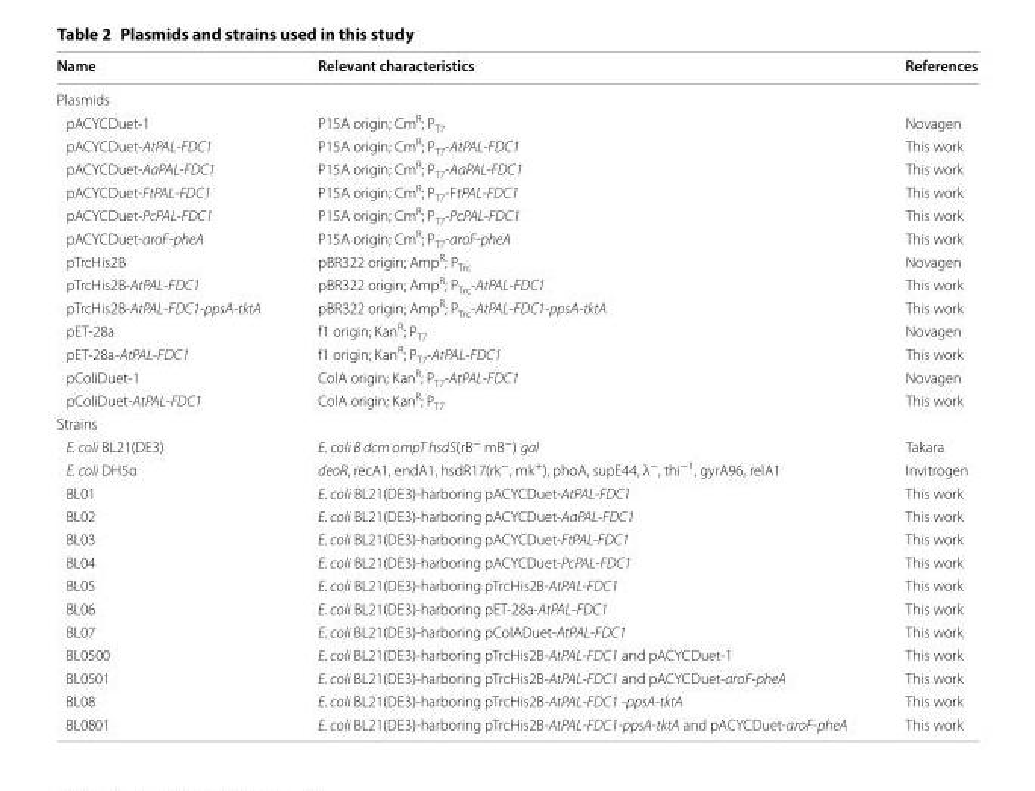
<table><thead><tr><td>Name</td><td>Relevant characteristics</td><td>References</td></tr></thead><tbody><tr><td colspan="3">Plasmids</td></tr><tr><td>pACYCDuet-1</td><td>P15A origin; Cm<sup>R</sup>; P<sub>T7</sub></td><td>Novagen</td></tr><tr><td>pACYCDuet-AtPAL-FDC1</td><td>P15A origin; Cm<sup>R</sup>; P<sub>T7</sub>-AtPAL-FDC1</td><td>This work</td></tr><tr><td>pACYCDuet-AaPAL-FDC1</td><td>P15A origin; Cm<sup>R</sup>; P<sub>T7</sub>-AaPAL-FDC1</td><td>This work</td></tr><tr><td>pACYCDuet-FtPAL-FDC1</td><td>P15A origin; Cm<sup>R</sup>; P<sub>T7</sub>-FtPAL-FDC1</td><td>This work</td></tr><tr><td>pACYCDuet-PcPAL-FDC1</td><td>P15A origin; Cm<sup>R</sup>; P<sub>T7</sub>-PcPAL-FDC1</td><td>This work</td></tr><tr><td>pACYCDuet-aroF-pheA</td><td>P15A origin; Cm<sup>R</sup>; P<sub>T7</sub>-aroF-pheA</td><td>This work</td></tr><tr><td>pTrcHis2B</td><td>pBR322 origin; Amp<sup>R</sup>; P<sub>Trc</sub></td><td>Novagen</td></tr><tr><td>pTrcHis2B-AtPAL-FDC1</td><td>pBR322 origin; Amp<sup>R</sup>; P<sub>Trc</sub>-AtPAL-FDC1</td><td>This work</td></tr><tr><td>pTrcHis2B-AtPAL-FDC1-ppsA-tktA</td><td>pBR322 origin; Amp<sup>R</sup>; P<sub>Trc</sub>-AtPAL-FDC1-ppsA-tktA</td><td>This work</td></tr><tr><td>pET-28a</td><td>f1 origin; Kan<sup>R</sup>; P<sub>T7</sub></td><td>Novagen</td></tr><tr><td>pET-28a-AtPAL-FDC1</td><td>f1 origin; Kan<sup>R</sup>; P<sub>T7</sub>-AtPAL-FDC1</td><td>This work</td></tr><tr><td>pColiDuet-1</td><td>ColA origin; Kan<sup>R</sup>; P<sub>T7</sub>-AtPAL-FDC1</td><td>Novagen</td></tr><tr><td>pColiDuet-AtPAL-FDC1</td><td>ColA origin; Kan<sup>R</sup>; P<sub>T7</sub></td><td>This work</td></tr><tr><td colspan="3">Strains</td></tr><tr><td>E. coli BL21(DE3)</td><td>E. coli B dcm ompT hsdS(rB<sup>−</sup> mB<sup>−</sup>) gal</td><td>Takara</td></tr><tr><td>E. coli DH5α</td><td>deoR, recA1, endA1, hsdR17(rk<sup>−</sup>, mk<sup>+</sup>), phoA, supE44, λ<sup>−</sup>, thi<sup>−1</sup>, gyrA96, relA1</td><td>Invitrogen</td></tr><tr><td>BL01</td><td>E. coli BL21(DE3)-harboring pACYCDuet-AtPAL-FDC1</td><td>This work</td></tr><tr><td>BL02</td><td>E. coli BL21(DE3)-harboring pACYCDuet-AaPAL-FDC1</td><td>This work</td></tr><tr><td>BL03</td><td>E. coli BL21(DE3)-harboring pACYCDuet-FtPAL-FDC1</td><td>This work</td></tr><tr><td>BL04</td><td>E. coli BL21(DE3)-harboring pACYCDuet-PcPAL-FDC1</td><td>This work</td></tr><tr><td>BL05</td><td>E. coli BL21(DE3)-harboring pTrcHis2B-AtPAL-FDC1</td><td>This work</td></tr><tr><td>BL06</td><td>E. coli BL21(DE3)-harboring pET-28a-AtPAL-FDC1</td><td>This work</td></tr><tr><td>BL07</td><td>E. coli BL21(DE3)-harboring pColADuet-AtPAL-FDC1</td><td>This work</td></tr><tr><td>BL0500</td><td>E. coli BL21(DE3)-harboring pTrcHis2B-AtPAL-FDC1 and pACYCDuet-1</td><td>This work</td></tr><tr><td>BL0501</td><td>E. coli BL21(DE3)-harboring pTrcHis2B-AtPAL-FDC1 and pACYCDuet-aroF-pheA</td><td>This work</td></tr><tr><td>BL08</td><td>E. coli BL21(DE3)-harboring pTrcHis2B-AtPAL-FDC1 -ppsA-tktA</td><td>This work</td></tr><tr><td>BL0801</td><td>E. coli BL21(DE3)-harboring pTrcHis2B-AtPAL-FDC1-ppsA-tktA and pACYCDuet-aroF-pheA</td><td>This work</td></tr></tbody></table>